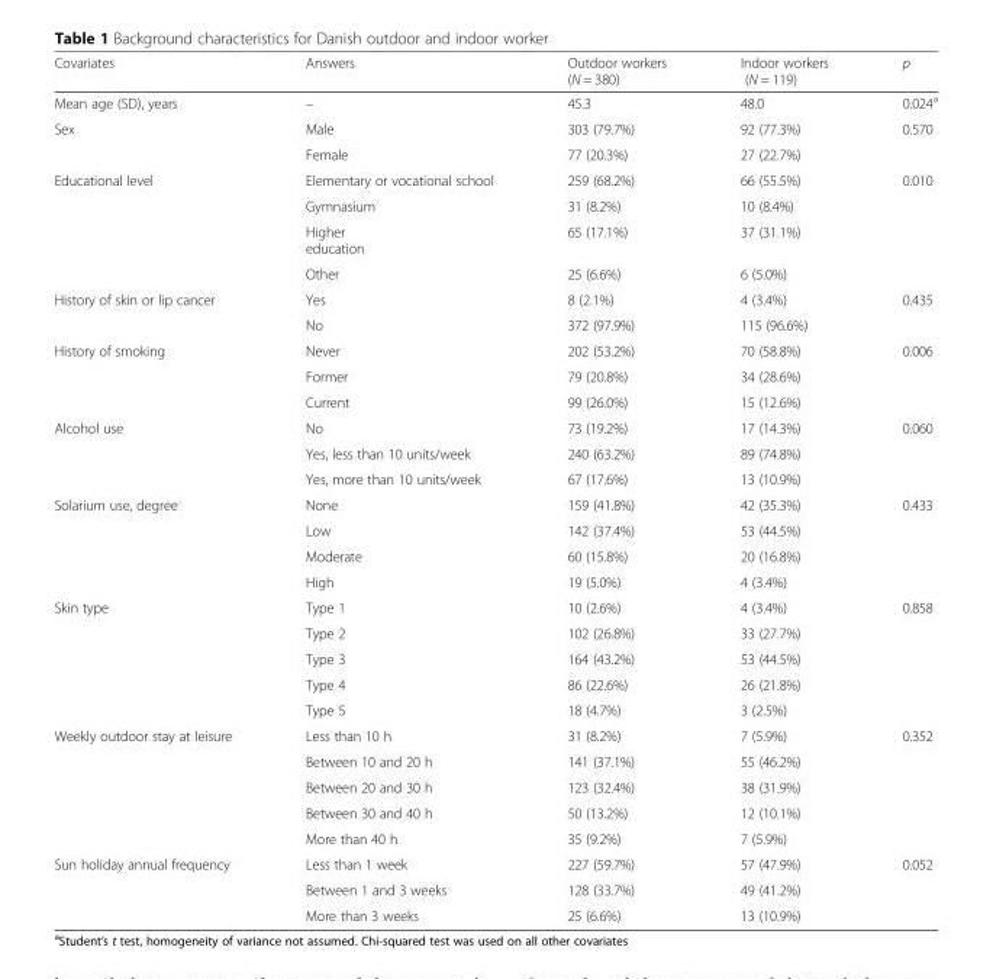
<table><thead><tr><td>Covariates</td><td>Answers</td><td>Outdoor workers (N = 380)</td><td>Indoor workers (N = 119)</td><td>p</td></tr></thead><tbody><tr><td>Mean age (SD), years</td><td>–</td><td>45.3</td><td>48.0</td><td>0.024<sup>a</sup></td></tr><tr><td rowspan="2">Sex</td><td>Male</td><td>303 (79.7%)</td><td>92 (77.3%)</td><td rowspan="2">0.570</td></tr><tr><td>Female</td><td>77 (20.3%)</td><td>27 (22.7%)</td></tr><tr><td rowspan="4">Educational level</td><td>Elementary or vocational school</td><td>259 (68.2%)</td><td>66 (55.5%)</td><td rowspan="4">0.010</td></tr><tr><td>Gymnasium</td><td>31 (8.2%)</td><td>10 (8.4%)</td></tr><tr><td>Higher education</td><td>65 (17.1%)</td><td>37 (31.1%)</td></tr><tr><td>Other</td><td>25 (6.6%)</td><td>6 (5.0%)</td></tr><tr><td rowspan="2">History of skin or lip cancer</td><td>Yes</td><td>8 (2.1%)</td><td>4 (3.4%)</td><td rowspan="2">0.435</td></tr><tr><td>No</td><td>372 (97.9%)</td><td>115 (96.6%)</td></tr><tr><td rowspan="3">History of smoking</td><td>Never</td><td>202 (53.2%)</td><td>70 (58.8%)</td><td rowspan="3">0.006</td></tr><tr><td>Former</td><td>79 (20.8%)</td><td>34 (28.6%)</td></tr><tr><td>Current</td><td>99 (26.0%)</td><td>15 (12.6%)</td></tr><tr><td rowspan="3">Alcohol use</td><td>No</td><td>73 (19.2%)</td><td>17 (14.3%)</td><td rowspan="3">0.060</td></tr><tr><td>Yes, less than 10 units/week</td><td>240 (63.2%)</td><td>89 (74.8%)</td></tr><tr><td>Yes, more than 10 units/week</td><td>67 (17.6%)</td><td>13 (10.9%)</td></tr><tr><td rowspan="4">Solarium use, degree</td><td>None</td><td>159 (41.8%)</td><td>42 (35.3%)</td><td rowspan="4">0.433</td></tr><tr><td>Low</td><td>142 (37.4%)</td><td>53 (44.5%)</td></tr><tr><td>Moderate</td><td>60 (15.8%)</td><td>20 (16.8%)</td></tr><tr><td>High</td><td>19 (5.0%)</td><td>4 (3.4%)</td></tr><tr><td rowspan="5">Skin type</td><td>Type 1</td><td>10 (2.6%)</td><td>4 (3.4%)</td><td rowspan="5">0.858</td></tr><tr><td>Type 2</td><td>102 (26.8%)</td><td>33 (27.7%)</td></tr><tr><td>Type 3</td><td>164 (43.2%)</td><td>53 (44.5%)</td></tr><tr><td>Type 4</td><td>86 (22.6%)</td><td>26 (21.8%)</td></tr><tr><td>Type 5</td><td>18 (4.7%)</td><td>3 (2.5%)</td></tr><tr><td rowspan="5">Weekly outdoor stay at leisure</td><td>Less than 10 h</td><td>31 (8.2%)</td><td>7 (5.9%)</td><td rowspan="5">0.352</td></tr><tr><td>Between 10 and 20 h</td><td>141 (37.1%)</td><td>55 (46.2%)</td></tr><tr><td>Between 20 and 30 h</td><td>123 (32.4%)</td><td>38 (31.9%)</td></tr><tr><td>Between 30 and 40 h</td><td>50 (13.2%)</td><td>12 (10.1%)</td></tr><tr><td>More than 40 h</td><td>35 (9.2%)</td><td>7 (5.9%)</td></tr><tr><td rowspan="3">Sun holiday annual frequency</td><td>Less than 1 week</td><td>227 (59.7%)</td><td>57 (47.9%)</td><td rowspan="3">0.052</td></tr><tr><td>Between 1 and 3 weeks</td><td>128 (33.7%)</td><td>49 (41.2%)</td></tr><tr><td>More than 3 weeks</td><td>25 (6.6%)</td><td>13 (10.9%)</td></tr></tbody></table>